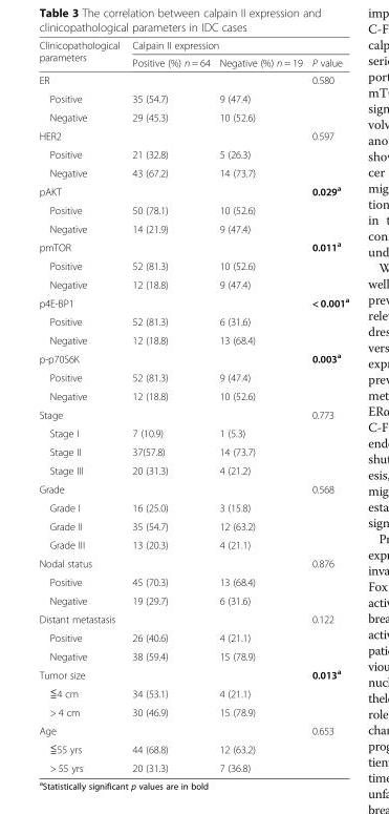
<table><thead><tr><td rowspan="2">Clinicopathological parameters</td><td colspan="3">Calpain II expression</td></tr><tr><td>Positive (%) n = 64</td><td>Negative (%) n = 19</td><td>P value</td></tr></thead><tbody><tr><td>ER</td><td></td><td></td><td>0.580</td></tr><tr><td>Positive</td><td>35 (54.7)</td><td>9 (47.4)</td><td></td></tr><tr><td>Negative</td><td>29 (45.3)</td><td>10 (52.6)</td><td></td></tr><tr><td>HER2</td><td></td><td></td><td>0.597</td></tr><tr><td>Positive</td><td>21 (32.8)</td><td>5 (26.3)</td><td></td></tr><tr><td>Negative</td><td>43 (67.2)</td><td>14 (73.7)</td><td></td></tr><tr><td>pAKT</td><td></td><td></td><td>0.029<sup>a</sup></td></tr><tr><td>Positive</td><td>50 (78.1)</td><td>10 (52.6)</td><td></td></tr><tr><td>Negative</td><td>14 (21.9)</td><td>9 (47.4)</td><td></td></tr><tr><td>pmTOR</td><td></td><td></td><td>0.011<sup>a</sup></td></tr><tr><td>Positive</td><td>52 (81.3)</td><td>10 (52.6)</td><td></td></tr><tr><td>Negative</td><td>12 (18.8)</td><td>9 (47.4)</td><td></td></tr><tr><td>p4E-BP1</td><td></td><td></td><td>&lt; 0.001<sup>a</sup></td></tr><tr><td>Positive</td><td>52 (81.3)</td><td>6 (31.6)</td><td></td></tr><tr><td>Negative</td><td>12 (18.8)</td><td>13 (68.4)</td><td></td></tr><tr><td>p-p70S6K</td><td></td><td></td><td>0.003<sup>a</sup></td></tr><tr><td>Positive</td><td>52 (81.3)</td><td>9 (47.4)</td><td></td></tr><tr><td>Negative</td><td>12 (18.8)</td><td>10 (52.6)</td><td></td></tr><tr><td>Stage</td><td></td><td></td><td>0.773</td></tr><tr><td>Stage I</td><td>7 (10.9)</td><td>1 (5.3)</td><td></td></tr><tr><td>Stage II</td><td>37(57.8)</td><td>14 (73.7)</td><td></td></tr><tr><td>Stage III</td><td>20 (31.3)</td><td>4 (21.2)</td><td></td></tr><tr><td>Grade</td><td></td><td></td><td>0.568</td></tr><tr><td>Grade I</td><td>16 (25.0)</td><td>3 (15.8)</td><td></td></tr><tr><td>Grade II</td><td>35 (54.7)</td><td>12 (63.2)</td><td></td></tr><tr><td>Grade III</td><td>13 (20.3)</td><td>4 (21.1)</td><td></td></tr><tr><td>Nodal status</td><td></td><td></td><td>0.876</td></tr><tr><td>Positive</td><td>45 (70.3)</td><td>13 (68.4)</td><td></td></tr><tr><td>Negative</td><td>19 (29.7)</td><td>6 (31.6)</td><td></td></tr><tr><td>Distant metastasis</td><td></td><td></td><td>0.122</td></tr><tr><td>Positive</td><td>26 (40.6)</td><td>4 (21.1)</td><td></td></tr><tr><td>Negative</td><td>38 (59.4)</td><td>15 (78.9)</td><td></td></tr><tr><td>Tumor size</td><td></td><td></td><td>0.013<sup>a</sup></td></tr><tr><td>≦4 cm</td><td>34 (53.1)</td><td>4 (21.1)</td><td></td></tr><tr><td>&gt; 4 cm</td><td>30 (46.9)</td><td>15 (78.9)</td><td></td></tr><tr><td>Age</td><td></td><td></td><td>0.653</td></tr><tr><td>≦55 yrs</td><td>44 (68.8)</td><td>12 (63.2)</td><td></td></tr><tr><td>&gt; 55 yrs</td><td>20 (31.3)</td><td>7 (36.8)</td><td></td></tr></tbody></table>